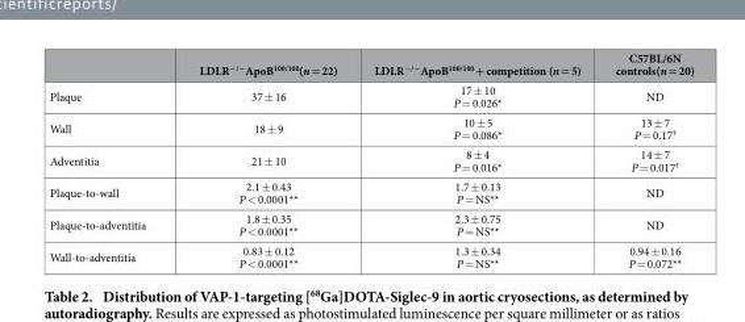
<table><thead><tr><td></td><td>LDLR−/−ApoB<sup>100/100</sup>(n = 22)</td><td>LDLR−/−ApoB<sup>100/100</sup> + competition (n = 5)</td><td>C57BL/6N controls(n = 20)</td></tr></thead><tbody><tr><td>Plaque</td><td>37 ± 16</td><td>17 ± 10 P = 0.026*</td><td>ND</td></tr><tr><td>Wall</td><td>18 ± 9</td><td>10 ± 5 P = 0.086*</td><td>13 ± 7 P = 0.17†</td></tr><tr><td>Adventitia</td><td>21 ± 10</td><td>8 ± 4 P = 0.016*</td><td>14 ± 7 P = 0.017†</td></tr><tr><td>Plaque-to-wall</td><td>2.1 ± 0.43 P &lt; 0.0001**</td><td>1.7 ± 0.13 P = NS**</td><td>ND</td></tr><tr><td>Plaque-to-adventitia</td><td>1.8 ± 0.35 P &lt; 0.0001**</td><td>2.3 ± 0.75 P = NS**</td><td>ND</td></tr><tr><td>Wall-to-adventitia</td><td>0.83 ± 0.12 P &lt; 0.0001**</td><td>1.3 ± 0.34 P = NS**</td><td>0.94 ± 0.16 P = 0.072**</td></tr></tbody></table>